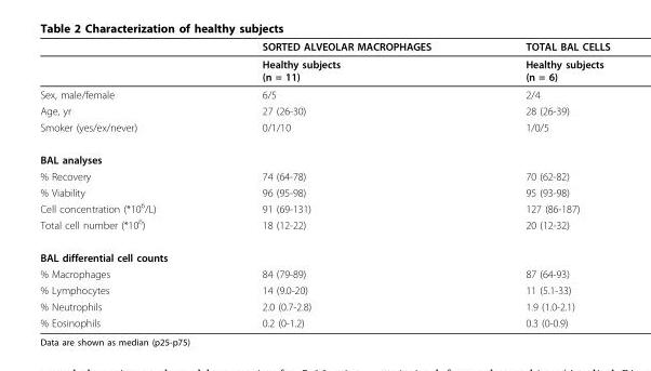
<table><thead><tr><td></td><td>SORTED ALVEOLAR MACROPHAGES</td><td>TOTAL BAL CELLS</td></tr></thead><tbody><tr><td></td><td>Healthy subjects (n = 11)</td><td>Healthy subjects (n = 6)</td></tr><tr><td>Sex, male/female</td><td>6/5</td><td>2/4</td></tr><tr><td>Age, yr</td><td>27 (26-30)</td><td>28 (26-39)</td></tr><tr><td>Smoker (yes/ex/never)</td><td>0/1/10</td><td>1/0/5</td></tr><tr><td colspan="3">BAL analyses</td></tr><tr><td>% Recovery</td><td>74 (64-78)</td><td>70 (62-82)</td></tr><tr><td>% Viability</td><td>96 (95-98)</td><td>95 (93-98)</td></tr><tr><td>Cell concentration (*10<sup>6</sup>/L)</td><td>91 (69-131)</td><td>127 (86-187)</td></tr><tr><td>Total cell number (*10<sup>6</sup>)</td><td>18 (12-22)</td><td>20 (12-32)</td></tr><tr><td colspan="3">BAL differential cell counts</td></tr><tr><td>% Macrophages</td><td>84 (79-89)</td><td>87 (64-93)</td></tr><tr><td>% Lymphocytes</td><td>14 (9.0-20)</td><td>11 (5.1-33)</td></tr><tr><td>% Neutrophils</td><td>2.0 (0.7-2.8)</td><td>1.9 (1.0-2.1)</td></tr><tr><td>% Eosinophils</td><td>0.2 (0-1.2)</td><td>0.3 (0-0.9)</td></tr></tbody></table>